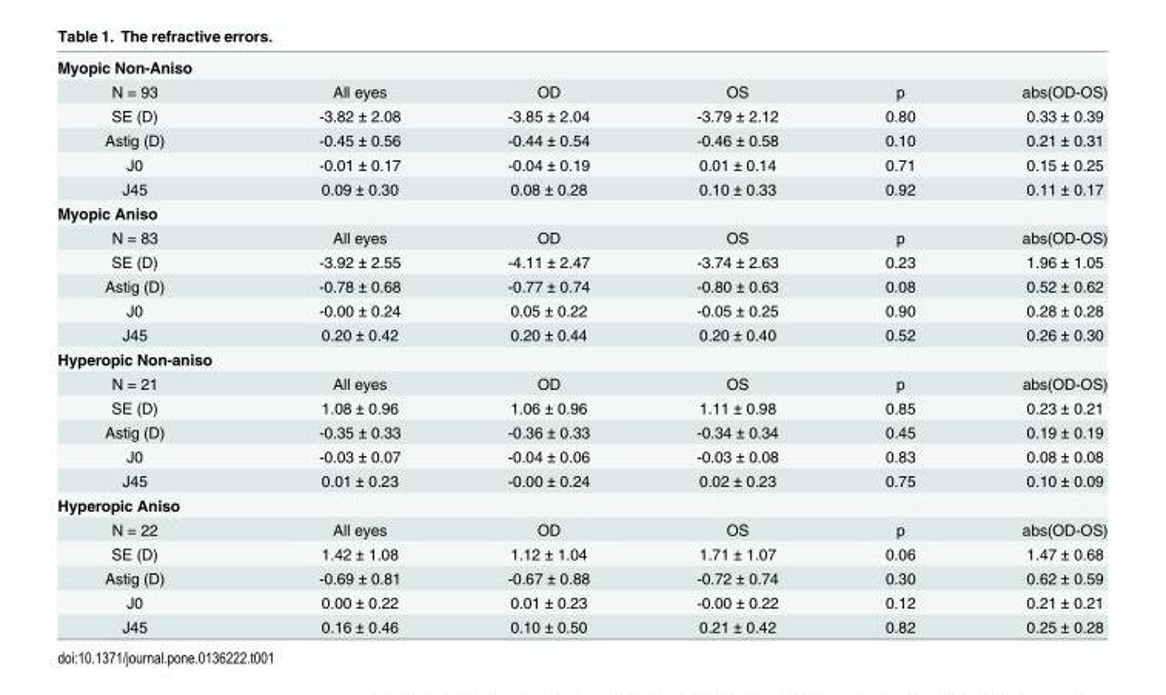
<table><tbody><tr><td colspan="6">Myopic Non-Aniso</td></tr><tr><td>N = 93</td><td>All eyes</td><td>OD</td><td>OS</td><td>p</td><td>abs(OD-OS)</td></tr><tr><td>SE (D)</td><td>-3.82 ± 2.08</td><td>-3.85 ± 2.04</td><td>-3.79 ± 2.12</td><td>0.80</td><td>0.33 ± 0.39</td></tr><tr><td>Astig (D)</td><td>-0.45 ± 0.56</td><td>-0.44 ± 0.54</td><td>-0.46 ± 0.58</td><td>0.10</td><td>0.21 ± 0.31</td></tr><tr><td>J0</td><td>-0.01 ± 0.17</td><td>-0.04 ± 0.19</td><td>0.01 ± 0.14</td><td>0.71</td><td>0.15 ± 0.25</td></tr><tr><td>J45</td><td>0.09 ± 0.30</td><td>0.08 ± 0.28</td><td>0.10 ± 0.33</td><td>0.92</td><td>0.11 ± 0.17</td></tr><tr><td colspan="6">Myopic Aniso</td></tr><tr><td>N = 83</td><td>All eyes</td><td>OD</td><td>OS</td><td>p</td><td>abs(OD-OS)</td></tr><tr><td>SE (D)</td><td>-3.92 ± 2.55</td><td>-4.11 ± 2.47</td><td>-3.74 ± 2.63</td><td>0.23</td><td>1.96 ± 1.05</td></tr><tr><td>Astig (D)</td><td>-0.78 ± 0.68</td><td>-0.77 ± 0.74</td><td>-0.80 ± 0.63</td><td>0.08</td><td>0.52 ± 0.62</td></tr><tr><td>J0</td><td>-0.00 ± 0.24</td><td>0.05 ± 0.22</td><td>-0.05 ± 0.25</td><td>0.90</td><td>0.28 ± 0.28</td></tr><tr><td>J45</td><td>0.20 ± 0.42</td><td>0.20 ± 0.44</td><td>0.20 ± 0.40</td><td>0.52</td><td>0.26 ± 0.30</td></tr><tr><td colspan="6">Hyperopic Non-aniso</td></tr><tr><td>N = 21</td><td>All eyes</td><td>OD</td><td>OS</td><td>p</td><td>abs(OD-OS)</td></tr><tr><td>SE (D)</td><td>1.08 ± 0.96</td><td>1.06 ± 0.96</td><td>1.11 ± 0.98</td><td>0.85</td><td>0.23 ± 0.21</td></tr><tr><td>Astig (D)</td><td>-0.35 ± 0.33</td><td>-0.36 ± 0.33</td><td>-0.34 ± 0.34</td><td>0.45</td><td>0.19 ± 0.19</td></tr><tr><td>J0</td><td>-0.03 ± 0.07</td><td>-0.04 ± 0.06</td><td>-0.03 ± 0.08</td><td>0.83</td><td>0.08 ± 0.08</td></tr><tr><td>J45</td><td>0.01 ± 0.23</td><td>-0.00 ± 0.24</td><td>0.02 ± 0.23</td><td>0.75</td><td>0.10 ± 0.09</td></tr><tr><td colspan="6">Hyperopic Aniso</td></tr><tr><td>N = 22</td><td>All eyes</td><td>OD</td><td>OS</td><td>p</td><td>abs(OD-OS)</td></tr><tr><td>SE (D)</td><td>1.42 ± 1.08</td><td>1.12 ± 1.04</td><td>1.71 ± 1.07</td><td>0.06</td><td>1.47 ± 0.68</td></tr><tr><td>Astig (D)</td><td>-0.69 ± 0.81</td><td>-0.67 ± 0.88</td><td>-0.72 ± 0.74</td><td>0.30</td><td>0.62 ± 0.59</td></tr><tr><td>J0</td><td>0.00 ± 0.22</td><td>0.01 ± 0.23</td><td>-0.00 ± 0.22</td><td>0.12</td><td>0.21 ± 0.21</td></tr><tr><td>J45</td><td>0.16 ± 0.46</td><td>0.10 ± 0.50</td><td>0.21 ± 0.42</td><td>0.82</td><td>0.25 ± 0.28</td></tr></tbody></table>